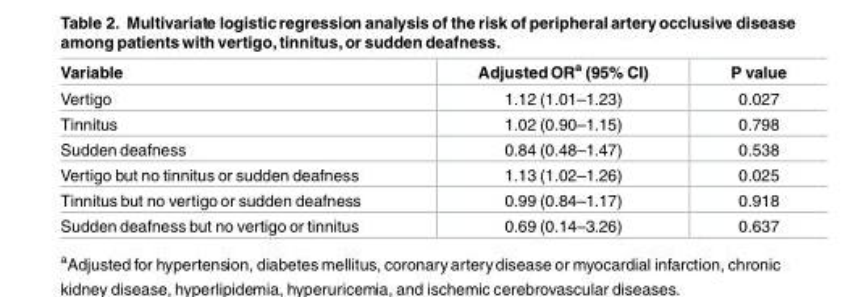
<table><thead><tr><td>Variable</td><td>Adjusted OR<sup>a</sup> (95% CI)</td><td>P value</td></tr></thead><tbody><tr><td>Vertigo</td><td>1.12 (1.01–1.23)</td><td>0.027</td></tr><tr><td>Tinnitus</td><td>1.02 (0.90–1.15)</td><td>0.798</td></tr><tr><td>Sudden deafness</td><td>0.84 (0.48–1.47)</td><td>0.538</td></tr><tr><td>Vertigo but no tinnitus or sudden deafness</td><td>1.13 (1.02–1.26)</td><td>0.025</td></tr><tr><td>Tinnitus but no vertigo or sudden deafness</td><td>0.99 (0.84–1.17)</td><td>0.918</td></tr><tr><td>Sudden deafness but no vertigo or tinnitus</td><td>0.69 (0.14–3.26)</td><td>0.637</td></tr></tbody></table>